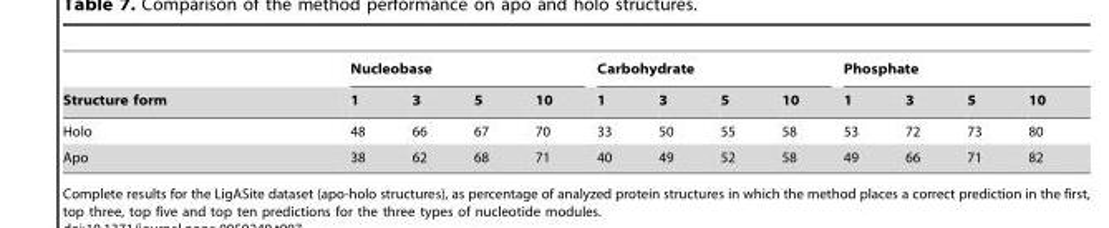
<table><thead><tr><td rowspan="2">Structure form</td><td colspan="4">Nucleobase</td><td colspan="4">Carbohydrate</td><td colspan="4">Phosphate</td></tr><tr><td>1</td><td>3</td><td>5</td><td>10</td><td>1</td><td>3</td><td>5</td><td>10</td><td>1</td><td>3</td><td>5</td><td>10</td></tr></thead><tbody><tr><td>Holo</td><td>48</td><td>66</td><td>67</td><td>70</td><td>33</td><td>50</td><td>55</td><td>58</td><td>53</td><td>72</td><td>73</td><td>80</td></tr><tr><td>Apo</td><td>38</td><td>62</td><td>68</td><td>71</td><td>40</td><td>49</td><td>52</td><td>58</td><td>49</td><td>66</td><td>71</td><td>82</td></tr></tbody></table>